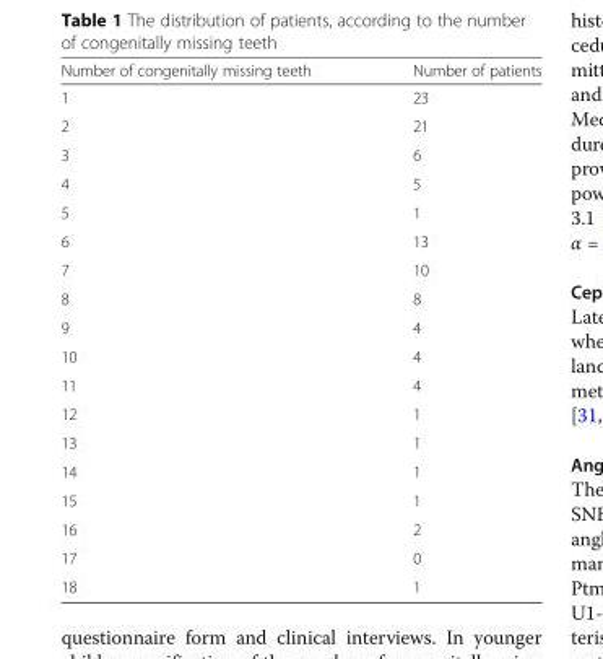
<table><thead><tr><td>Number of congenitally missing teeth</td><td>Number of patients</td></tr></thead><tbody><tr><td>1</td><td>23</td></tr><tr><td>2</td><td>21</td></tr><tr><td>3</td><td>6</td></tr><tr><td>4</td><td>5</td></tr><tr><td>5</td><td>1</td></tr><tr><td>6</td><td>13</td></tr><tr><td>7</td><td>10</td></tr><tr><td>8</td><td>8</td></tr><tr><td>9</td><td>4</td></tr><tr><td>10</td><td>4</td></tr><tr><td>11</td><td>4</td></tr><tr><td>12</td><td>1</td></tr><tr><td>13</td><td>1</td></tr><tr><td>14</td><td>1</td></tr><tr><td>15</td><td>1</td></tr><tr><td>16</td><td>2</td></tr><tr><td>17</td><td>0</td></tr><tr><td>18</td><td>1</td></tr></tbody></table>